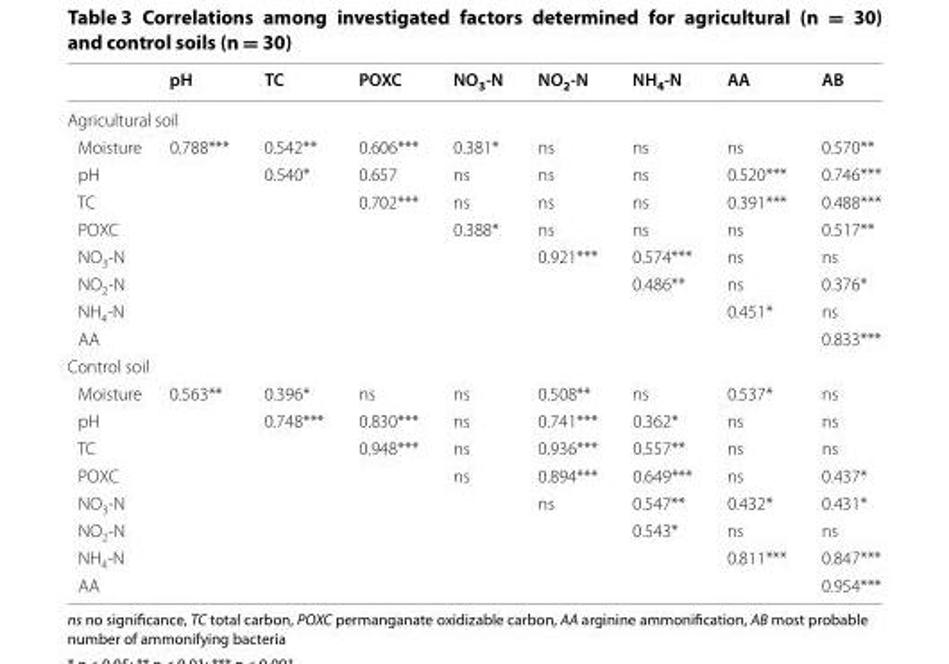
<table><thead><tr><td></td><td>pH</td><td>TC</td><td>POXC</td><td>NO<sub>3</sub>-N</td><td>NO<sub>2</sub>-N</td><td>NH<sub>4</sub>-N</td><td>AA</td><td>AB</td></tr></thead><tbody><tr><td colspan="9">Agricultural soil</td></tr><tr><td>Moisture</td><td>0.788***</td><td>0.542**</td><td>0.606***</td><td>0.381*</td><td>ns</td><td>ns</td><td>ns</td><td>0.570**</td></tr><tr><td>pH</td><td></td><td>0.540*</td><td>0.657</td><td>ns</td><td>ns</td><td>ns</td><td>0.520***</td><td>0.746***</td></tr><tr><td>TC</td><td></td><td></td><td>0.702***</td><td>ns</td><td>ns</td><td>ns</td><td>0.391***</td><td>0.488***</td></tr><tr><td>POXC</td><td></td><td></td><td></td><td>0.388*</td><td>ns</td><td>ns</td><td>ns</td><td>0.517**</td></tr><tr><td>NO<sub>3</sub>‑N</td><td></td><td></td><td></td><td></td><td>0.921***</td><td>0.574***</td><td>ns</td><td>ns</td></tr><tr><td>NO<sub>2</sub>‑N</td><td></td><td></td><td></td><td></td><td></td><td>0.486**</td><td>ns</td><td>0.376*</td></tr><tr><td>NH<sub>4</sub>‑N</td><td></td><td></td><td></td><td></td><td></td><td></td><td>0.451*</td><td>ns</td></tr><tr><td>AA</td><td></td><td></td><td></td><td></td><td></td><td></td><td></td><td>0.833***</td></tr><tr><td colspan="9">Control soil</td></tr><tr><td>Moisture</td><td>0.563**</td><td>0.396*</td><td>ns</td><td>ns</td><td>0.508**</td><td>ns</td><td>0.537*</td><td>ns</td></tr><tr><td>pH</td><td></td><td>0.748***</td><td>0.830***</td><td>ns</td><td>0.741***</td><td>0.362*</td><td>ns</td><td>ns</td></tr><tr><td>TC</td><td></td><td></td><td>0.948***</td><td>ns</td><td>0.936***</td><td>0.557**</td><td>ns</td><td>ns</td></tr><tr><td>POXC</td><td></td><td></td><td></td><td>ns</td><td>0.894***</td><td>0.649***</td><td>ns</td><td>0.437*</td></tr><tr><td>NO<sub>3</sub>‑N</td><td></td><td></td><td></td><td></td><td>ns</td><td>0.547**</td><td>0.432*</td><td>0.431*</td></tr><tr><td>NO<sub>2</sub>‑N</td><td></td><td></td><td></td><td></td><td></td><td>0.543*</td><td>ns</td><td>ns</td></tr><tr><td>NH<sub>4</sub>‑N</td><td></td><td></td><td></td><td></td><td></td><td></td><td>0.811***</td><td>0.847***</td></tr><tr><td>AA</td><td></td><td></td><td></td><td></td><td></td><td></td><td></td><td>0.954***</td></tr></tbody></table>